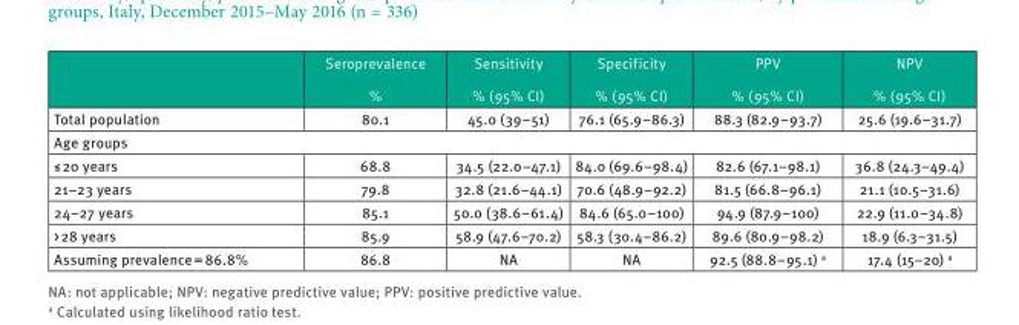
<table><thead><tr><td></td><td>Seroprevalence %</td><td>Sensitivity % (95% CI)</td><td>Specificity % (95% CI)</td><td>PPV % (95% CI)</td><td>NPV % (95% CI)</td></tr></thead><tbody><tr><td>Total population</td><td>80.1</td><td>45.0 (39–51)</td><td>76.1 (65.9–86.3)</td><td>88.3 (82.9–93.7)</td><td>25.6 (19.6–31.7)</td></tr><tr><td colspan="6">Age groups</td></tr><tr><td>≤ 20 years</td><td>68.8</td><td>34.5 (22.0–47.1)</td><td>84.0 (69.6–98.4)</td><td>82.6 (67.1–98.1)</td><td>36.8 (24.3–49.4)</td></tr><tr><td>21–23 years</td><td>79.8</td><td>32.8 (21.6–44.1)</td><td>70.6 (48.9–92.2)</td><td>81.5 (66.8–96.1)</td><td>21.1 (10.5–31.6)</td></tr><tr><td>24–27 years</td><td>85.1</td><td>50.0 (38.6–61.4)</td><td>84.6 (65.0–100)</td><td>94.9 (87.9–100)</td><td>22.9 (11.0–34.8)</td></tr><tr><td>&gt; 28 years</td><td>85.9</td><td>58.9 (47.6–70.2)</td><td>58.3 (30.4–86.2)</td><td>89.6 (80.9–98.2)</td><td>18.9 (6.3–31.5)</td></tr><tr><td>Assuming prevalence = 86.8%</td><td>86.8</td><td>NA</td><td>NA</td><td>92.5 (88.8–95.1) <sup>a</sup></td><td>17.4 (15–20) <sup>a</sup></td></tr></tbody></table>